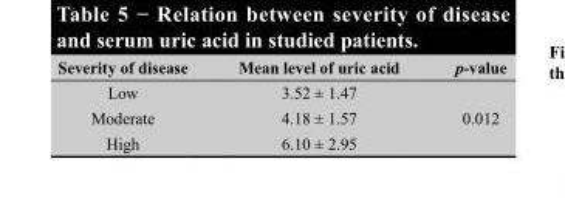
<table><thead><tr><td>Severity of disease</td><td>Mean level of uric acid</td><td>p-value</td></tr></thead><tbody><tr><td>Low</td><td>3.52 ± 1.47</td><td></td></tr><tr><td>Moderate</td><td>4.18 ± 1.57</td><td>0.012</td></tr><tr><td>High</td><td>6.10 ± 2.95</td><td></td></tr></tbody></table>